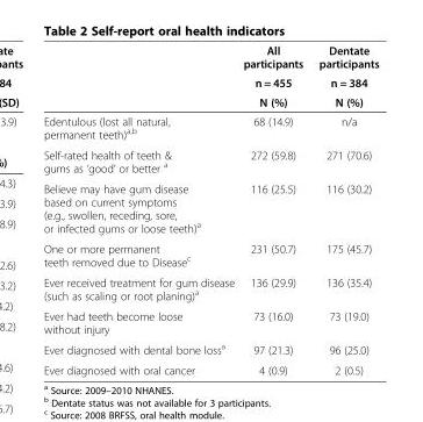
<table><thead><tr><td rowspan="3"></td><td rowspan="3">All participants n = 455 N (%)</td><td rowspan="3">Dentate participants n = 384 N (%)</td></tr><tr></tr><tr></tr></thead><tbody><tr><td>Edentulous (lost all natural, permanent teeth)<sup>a,b</sup></td><td>68 (14.9)</td><td>n/a</td></tr><tr><td>Self-rated health of teeth &amp; gums as ‘good’ or better <sup>a</sup></td><td>272 (59.8)</td><td>271 (70.6)</td></tr><tr><td>Believe may have gum disease based on current symptoms (e.g., swollen, receding, sore, or infected gums or loose teeth)<sup>a</sup></td><td>116 (25.5)</td><td>116 (30.2)</td></tr><tr><td>One or more permanent teeth removed due to Disease<sup>c</sup></td><td>231 (50.7)</td><td>175 (45.7)</td></tr><tr><td>Ever received treatment for gum disease (such as scaling or root planing)<sup>a</sup></td><td>136 (29.9)</td><td>136 (35.4)</td></tr><tr><td>Ever had teeth become loose without injury</td><td>73 (16.0)</td><td>73 (19.0)</td></tr><tr><td>Ever diagnosed with dental bone loss<sup>a</sup></td><td>97 (21.3)</td><td>96 (25.0)</td></tr><tr><td>Ever diagnosed with oral cancer</td><td>4 (0.9)</td><td>2 (0.5)</td></tr></tbody></table>